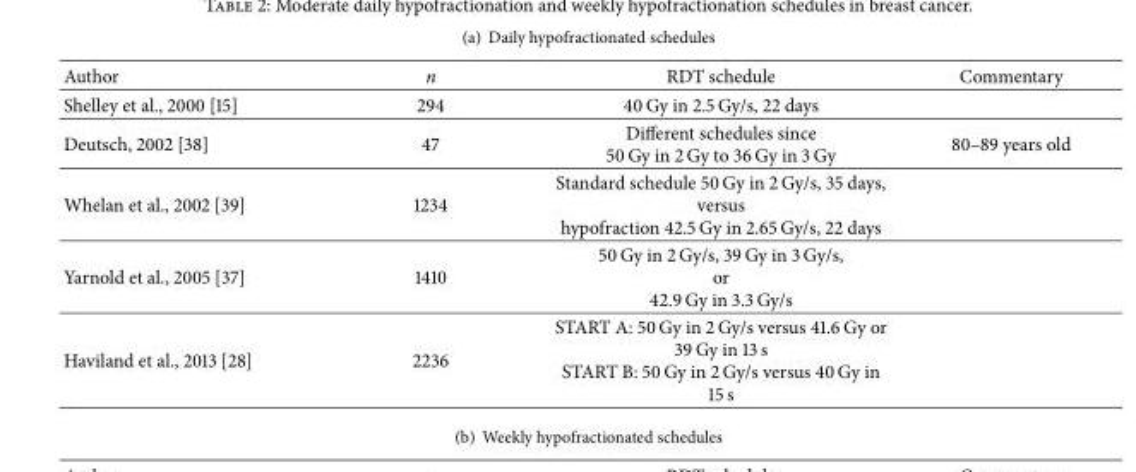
<table><thead><tr><td>Author</td><td>n</td><td>RDT schedule</td><td>Commentary</td></tr></thead><tbody><tr><td>Shelley et al., 2000 [15]</td><td>294</td><td>40 Gy in 2.5 Gy/s, 22 days</td><td></td></tr><tr><td>Deutsch, 2002 [38]</td><td>47</td><td>Different schedules since 50 Gy in 2 Gy to 36 Gy in 3 Gy</td><td>80–89 years old</td></tr><tr><td>Whelan et al., 2002 [39]</td><td>1234</td><td>Standard schedule 50 Gy in 2 Gy/s, 35 days, versus hypofraction 42.5 Gy in 2.65 Gy/s, 22 days</td><td></td></tr><tr><td>Yarnold et al., 2005 [37]</td><td>1410</td><td>50 Gy in 2 Gy/s, 39 Gy in 3 Gy/s, or 42.9 Gy in 3.3 Gy/s</td><td></td></tr><tr><td>Haviland et al., 2013 [28]</td><td>2236</td><td>START A: 50 Gy in 2 Gy/s versus 41.6 Gy or 39 Gy in 13 s START B: 50 Gy in 2 Gy/s versus 40 Gy in 15 s</td><td></td></tr></tbody></table>